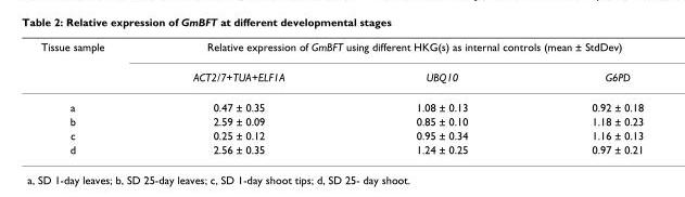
<table><thead><tr><td rowspan="2">Tissue sample</td><td colspan="3">Relative expression of GmBFT using different HKG(s) as internal controls (mean ± StdDev)</td></tr><tr><td>ACT2/7+TUA+ELF1A</td><td>UBQ10</td><td>G6PD</td></tr></thead><tbody><tr><td>a</td><td>0.47 ± 0.35</td><td>1.08 ± 0.13</td><td>0.92 ± 0.18</td></tr><tr><td>b</td><td>2.59 ± 0.09</td><td>0.85 ± 0.10</td><td>1.18 ± 0.23</td></tr><tr><td>c</td><td>0.25 ± 0.12</td><td>0.95 ± 0.34</td><td>1.16 ± 0.13</td></tr><tr><td>d</td><td>2.56 ± 0.35</td><td>1.24 ± 0.25</td><td>0.97 ± 0.21</td></tr></tbody></table>